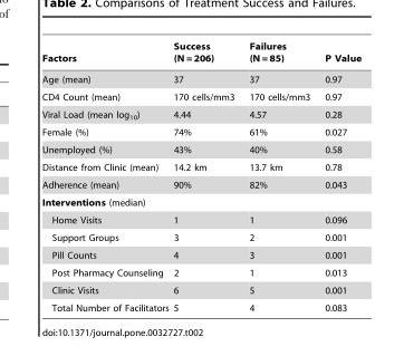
<table><thead><tr><td>Factors</td><td>Success (N = 206)</td><td>Failures (N = 85)</td><td>P Value</td></tr></thead><tbody><tr><td>Age (mean)</td><td>37</td><td>37</td><td>0.97</td></tr><tr><td>CD4 Count (mean)</td><td>170 cells/mm3</td><td>170 cells/mm3</td><td>0.97</td></tr><tr><td>Viral Load (mean log<sub>10</sub>)</td><td>4.44</td><td>4.57</td><td>0.28</td></tr><tr><td>Female (%)</td><td>74%</td><td>61%</td><td>0.027</td></tr><tr><td>Unemployed (%)</td><td>43%</td><td>40%</td><td>0.58</td></tr><tr><td>Distance from Clinic (mean)</td><td>14.2 km</td><td>13.7 km</td><td>0.78</td></tr><tr><td>Adherence (mean)</td><td>90%</td><td>82%</td><td>0.043</td></tr><tr><td colspan="4">Interventions (median)</td></tr><tr><td>Home Visits</td><td>1</td><td>1</td><td>0.096</td></tr><tr><td>Support Groups</td><td>3</td><td>2</td><td>0.001</td></tr><tr><td>Pill Counts</td><td>4</td><td>3</td><td>0.001</td></tr><tr><td>Post Pharmacy Counseling</td><td>2</td><td>1</td><td>0.013</td></tr><tr><td>Clinic Visits</td><td>6</td><td>5</td><td>0.001</td></tr><tr><td>Total Number of Facilitators</td><td>5</td><td>4</td><td>0.083</td></tr></tbody></table>